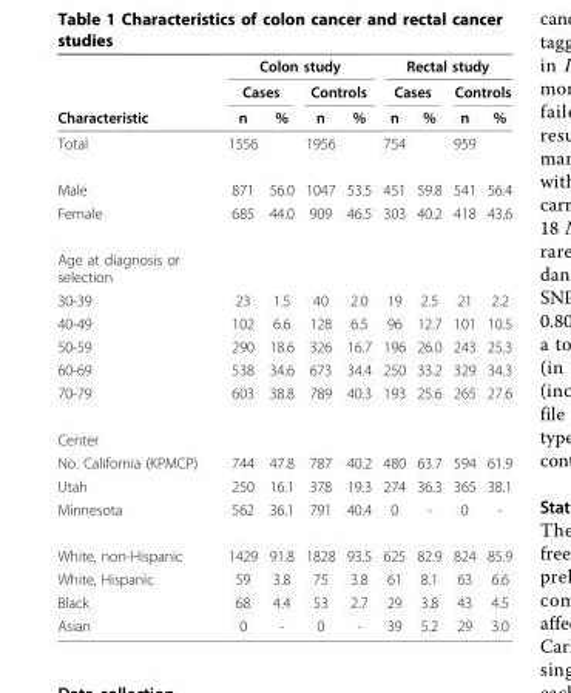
<table><thead><tr><td rowspan="3">Characteristic</td><td colspan="4">Colon study</td><td colspan="4">Rectal study</td></tr><tr><td colspan="2">Cases</td><td colspan="2">Controls</td><td colspan="2">Cases</td><td colspan="2">Controls</td></tr><tr><td>n</td><td>%</td><td>n</td><td>%</td><td>n</td><td>%</td><td>n</td><td>%</td></tr></thead><tbody><tr><td>Total</td><td>1556</td><td></td><td>1956</td><td></td><td>754</td><td></td><td>959</td><td></td></tr><tr><td>Male</td><td>871</td><td>56.0</td><td>1047</td><td>53.5</td><td>451</td><td>59.8</td><td>541</td><td>56.4</td></tr><tr><td>Female</td><td>685</td><td>44.0</td><td>909</td><td>46.5</td><td>303</td><td>40.2</td><td>418</td><td>43.6</td></tr><tr><td colspan="9">Age at diagnosis or selection</td></tr><tr><td>30-39</td><td>23</td><td>1.5</td><td>40</td><td>2.0</td><td>19</td><td>2.5</td><td>21</td><td>2.2</td></tr><tr><td>40-49</td><td>102</td><td>6.6</td><td>128</td><td>6.5</td><td>96</td><td>12.7</td><td>101</td><td>10.5</td></tr><tr><td>50-59</td><td>290</td><td>18.6</td><td>326</td><td>16.7</td><td>196</td><td>26.0</td><td>243</td><td>25.3</td></tr><tr><td>60-69</td><td>538</td><td>34.6</td><td>673</td><td>34.4</td><td>250</td><td>33.2</td><td>329</td><td>34.3</td></tr><tr><td>70-79</td><td>603</td><td>38.8</td><td>789</td><td>40.3</td><td>193</td><td>25.6</td><td>265</td><td>27.6</td></tr><tr><td colspan="9">Center</td></tr><tr><td>No. California (KPMCP)</td><td>744</td><td>47.8</td><td>787</td><td>40.2</td><td>480</td><td>63.7</td><td>594</td><td>61.9</td></tr><tr><td>Utah</td><td>250</td><td>16.1</td><td>378</td><td>19.3</td><td>274</td><td>36.3</td><td>365</td><td>38.1</td></tr><tr><td>Minnesota</td><td>562</td><td>36.1</td><td>791</td><td>40.4</td><td>0</td><td>-</td><td>0</td><td>-</td></tr><tr><td>White, non-Hispanic</td><td>1429</td><td>91.8</td><td>1828</td><td>93.5</td><td>625</td><td>82.9</td><td>824</td><td>85.9</td></tr><tr><td>White, Hispanic</td><td>59</td><td>3.8</td><td>75</td><td>3.8</td><td>61</td><td>8.1</td><td>63</td><td>6.6</td></tr><tr><td>Black</td><td>68</td><td>4.4</td><td>53</td><td>2.7</td><td>29</td><td>3.8</td><td>43</td><td>4.5</td></tr><tr><td>Asian</td><td>0</td><td>-</td><td>0</td><td>-</td><td>39</td><td>5.2</td><td>29</td><td>3.0</td></tr></tbody></table>